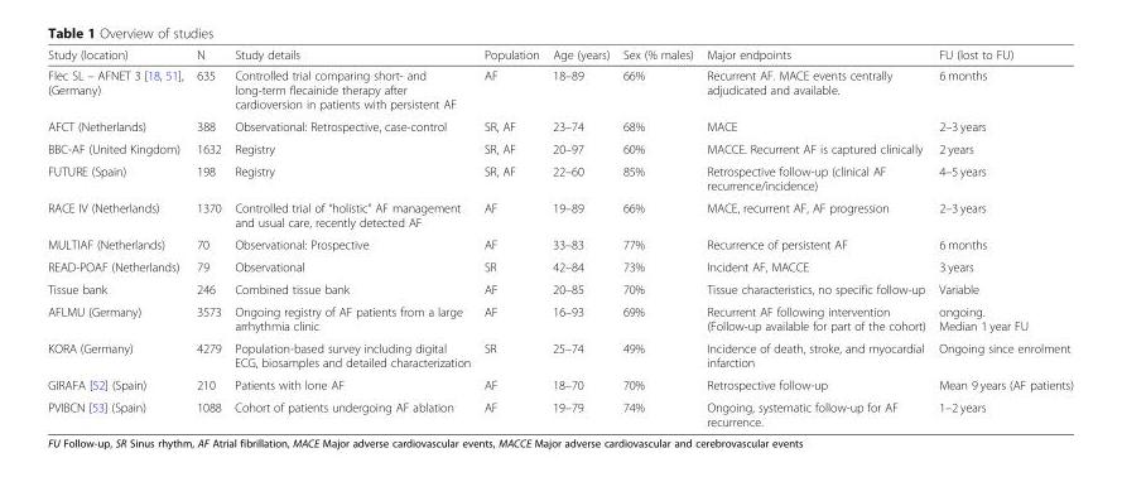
<table><thead><tr><td>Study (location)</td><td>N</td><td>Study details</td><td>Population</td><td>Age (years)</td><td>Sex (% males)</td><td>Major endpoints</td><td>FU (lost to FU)</td></tr></thead><tbody><tr><td>Flec SL – AFNET 3 [18, 51], (Germany)</td><td>635</td><td>Controlled trial comparing short- and long-term flecainide therapy after cardioversion in patients with persistent AF</td><td>AF</td><td>18–89</td><td>66%</td><td>Recurrent AF. MACE events centrally adjudicated and available.</td><td>6 months</td></tr><tr><td>AFCT (Netherlands)</td><td>388</td><td>Observational: Retrospective, case-control</td><td>SR, AF</td><td>23–74</td><td>68%</td><td>MACE</td><td>2–3 years</td></tr><tr><td>BBC-AF (United Kingdom)</td><td>1632</td><td>Registry</td><td>SR, AF</td><td>20–97</td><td>60%</td><td>MACCE. Recurrent AF is captured clinically</td><td>2 years</td></tr><tr><td>FUTURE (Spain)</td><td>198</td><td>Registry</td><td>SR, AF</td><td>22–60</td><td>85%</td><td>Retrospective follow-up (clinical AF recurrence/incidence)</td><td>4–5 years</td></tr><tr><td>RACE IV (Netherlands)</td><td>1370</td><td>Controlled trial of “holistic” AF management and usual care, recently detected AF</td><td>AF</td><td>19–89</td><td>66%</td><td>MACE, recurrent AF, AF progression</td><td>2–3 years</td></tr><tr><td>MULTIAF (Netherlands)</td><td>70</td><td>Observational: Prospective</td><td>AF</td><td>33–83</td><td>77%</td><td>Recurrence of persistent AF</td><td>6 months</td></tr><tr><td>READ-POAF (Netherlands)</td><td>79</td><td>Observational</td><td>SR</td><td>42–84</td><td>73%</td><td>Incident AF, MACCE</td><td>3 years</td></tr><tr><td>Tissue bank</td><td>246</td><td>Combined tissue bank</td><td>AF</td><td>20–85</td><td>70%</td><td>Tissue characteristics, no specific follow-up</td><td>Variable</td></tr><tr><td>AFLMU (Germany)</td><td>3573</td><td>Ongoing registry of AF patients from a large arrhythmia clinic</td><td>AF</td><td>16–93</td><td>69%</td><td>Recurrent AF following intervention (Follow-up available for part of the cohort)</td><td>ongoing. Median 1 year FU</td></tr><tr><td>KORA (Germany)</td><td>4279</td><td>Population-based survey including digital ECG, biosamples and detailed characterization</td><td>SR</td><td>25–74</td><td>49%</td><td>Incidence of death, stroke, and myocardial infarction</td><td>Ongoing since enrolment</td></tr><tr><td>GIRAFA [52] (Spain)</td><td>210</td><td>Patients with lone AF</td><td>AF</td><td>18–70</td><td>70%</td><td>Retrospective follow-up</td><td>Mean 9 years (AF patients)</td></tr><tr><td>PVIBCN [53] (Spain)</td><td>1088</td><td>Cohort of patients undergoing AF ablation</td><td>AF</td><td>19–79</td><td>74%</td><td>Ongoing, systematic follow-up for AF recurrence.</td><td>1–2 years</td></tr></tbody></table>